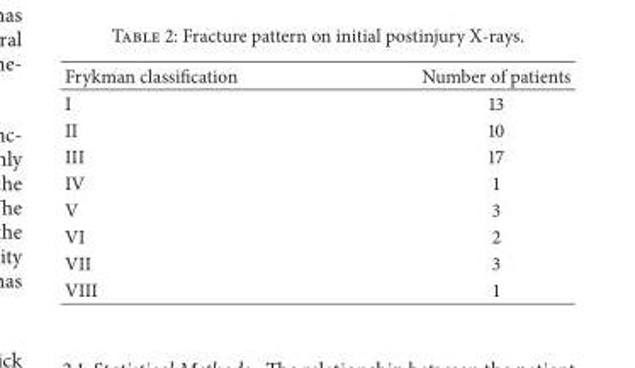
<table><thead><tr><td>Frykman classification</td><td>Number of patients</td></tr></thead><tbody><tr><td>I</td><td>13</td></tr><tr><td>II</td><td>10</td></tr><tr><td>III</td><td>17</td></tr><tr><td>IV</td><td>1</td></tr><tr><td>V</td><td>3</td></tr><tr><td>VI</td><td>2</td></tr><tr><td>VII</td><td>3</td></tr><tr><td>VIII</td><td>1</td></tr></tbody></table>